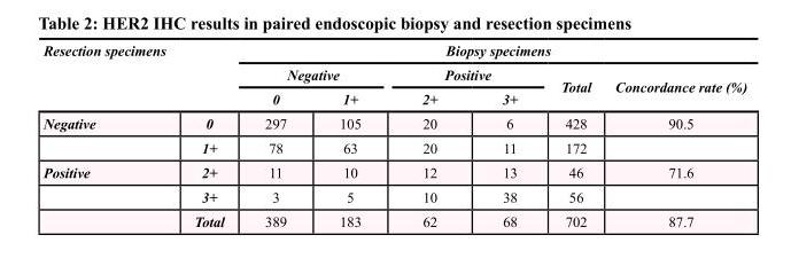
<table><thead><tr><td rowspan="3" colspan="2">Resection specimens</td><td colspan="6">Biopsy specimens</td></tr><tr><td colspan="2">Negative</td><td colspan="2">Positive</td><td rowspan="3">Total 428</td><td rowspan="3">Concordance rate (%) 90.5</td></tr><tr><td rowspan="2">0 297</td><td rowspan="2">1+ 105</td><td rowspan="2">2+ 20</td><td rowspan="2">3+ 6</td></tr><tr><td>Negative</td><td>0</td></tr></thead><tbody><tr><td></td><td>1+</td><td>78</td><td>63</td><td>20</td><td>11</td><td>172</td><td></td></tr><tr><td rowspan="3">Positive</td><td>2+</td><td>11</td><td>10</td><td>12</td><td>13</td><td>46</td><td>71.6</td></tr><tr><td>3+</td><td>3</td><td>5</td><td>10</td><td>38</td><td>56</td><td></td></tr><tr><td>Total</td><td>389</td><td>183</td><td>62</td><td>68</td><td>702</td><td>87.7</td></tr></tbody></table>